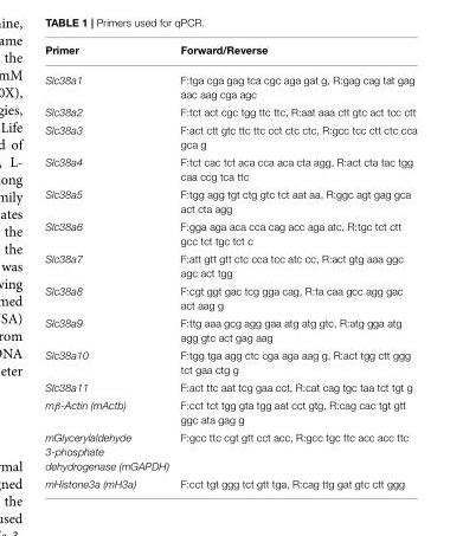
<table><thead><tr><td>Primer</td><td>Forward/Reverse</td></tr></thead><tbody><tr><td>Slc38a1</td><td>F:tga cga gag tca cgc aga gat g, R:gag cag tat gag aac aag cga agc</td></tr><tr><td>Slc38a2</td><td>F:tct act cgc tgg ttc ttc, R:aat aaa ctt gtc act tcc ctt</td></tr><tr><td>Slc38a3</td><td>F:act ctt gtc ttc ttc cct ctc ctc, R:gcc tcc ctt ctc cca gca g</td></tr><tr><td>Slc38a4</td><td>F:tct cac tct aca cca aca cta agg, R:act cta tac tgg caa ccg tca ttc</td></tr><tr><td>Slc38a5</td><td>F:tgg agg tgt ctg gtc tct aat aa, R:ggc agt gag gca act cta agg</td></tr><tr><td>Slc38a6</td><td>F:gga aga aca cca cag acc aga atc, R:tgc tct ctt gcc tct tgc tct c</td></tr><tr><td>Slc38a7</td><td>F:att gtt gtt ctc cca tcc atc cc, R:act gtg aaa ggc agc act tgg</td></tr><tr><td>Slc38a8</td><td>F:cgt ggt gac tcg gga cag, R:ta caa gcc agg gac act aag g</td></tr><tr><td>Slc38a9</td><td>F:ttg aaa gcg agg gaa atg atg gtc, R:atg gga atg agg gtc act gag aag</td></tr><tr><td>Slc38a10</td><td>F:tgg tga agg ctc cga aga aag g, R:act tgg ctt ggg tct gaa ctg g</td></tr><tr><td>Slc38a11</td><td>F:act ttc aat tcg gaa cct, R:cat cag tgc taa tct tgt g</td></tr><tr><td>mβ-Actin (mActb)</td><td>F:cct tct tgg gta tgg aat cct gtg, R:cag cac tgt gtt ggc ata gag g</td></tr><tr><td>mGlycerylaldehyde 3-phosphate dehydrogenase (mGAPDH)</td><td>F:gcc ttc cgt gtt cct acc, R:gcc tgc ttc acc acc ttc</td></tr><tr><td>mHistone3a (mH3a)</td><td>F:cct tgt ggg tct gtt tga, R:cag ttg gat gtc ctt ggg</td></tr></tbody></table>